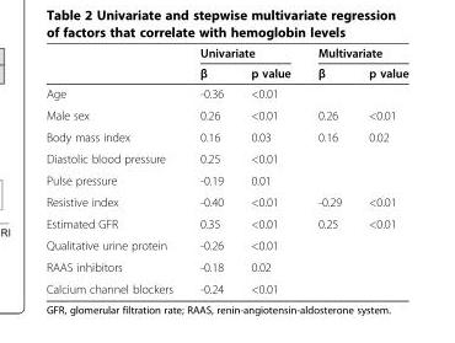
<table><thead><tr><td rowspan="2"></td><td colspan="2">Univariate</td><td colspan="2">Multivariate</td></tr><tr><td>β</td><td>p value</td><td>β</td><td>p value</td></tr></thead><tbody><tr><td>Age</td><td>-0.36</td><td>&lt;0.01</td><td></td><td></td></tr><tr><td>Male sex</td><td>0.26</td><td>&lt;0.01</td><td>0.26</td><td>&lt;0.01</td></tr><tr><td>Body mass index</td><td>0.16</td><td>0.03</td><td>0.16</td><td>0.02</td></tr><tr><td>Diastolic blood pressure</td><td>0.25</td><td>&lt;0.01</td><td></td><td></td></tr><tr><td>Pulse pressure</td><td>-0.19</td><td>0.01</td><td></td><td></td></tr><tr><td>Resistive index</td><td>-0.40</td><td>&lt;0.01</td><td>-0.29</td><td>&lt;0.01</td></tr><tr><td>Estimated GFR</td><td>0.35</td><td>&lt;0.01</td><td>0.25</td><td>&lt;0.01</td></tr><tr><td>Qualitative urine protein</td><td>-0.26</td><td>&lt;0.01</td><td></td><td></td></tr><tr><td>RAAS inhibitors</td><td>-0.18</td><td>0.02</td><td></td><td></td></tr><tr><td>Calcium channel blockers</td><td>-0.24</td><td>&lt;0.01</td><td></td><td></td></tr></tbody></table>